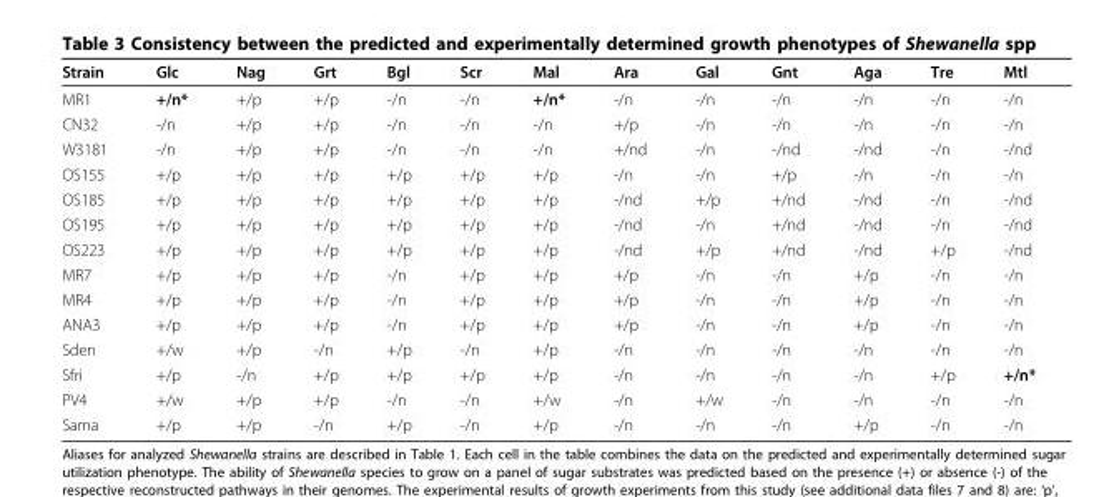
<table><thead><tr><td>Strain</td><td>Glc</td><td>Nag</td><td>Grt</td><td>Bgl</td><td>Scr</td><td>Mal</td><td>Ara</td><td>Gal</td><td>Gnt</td><td>Aga</td><td>Tre</td><td>Mtl</td></tr></thead><tbody><tr><td>MR1</td><td>+/n*</td><td>+/p</td><td>+/p</td><td>-/n</td><td>-/n</td><td>+/n*</td><td>-/n</td><td>-/n</td><td>-/n</td><td>-/n</td><td>-/n</td><td>-/n</td></tr><tr><td>CN32</td><td>-/n</td><td>+/p</td><td>+/p</td><td>-/n</td><td>-/n</td><td>-/n</td><td>+/p</td><td>-/n</td><td>-/n</td><td>-/n</td><td>-/n</td><td>-/n</td></tr><tr><td>W3181</td><td>-/n</td><td>+/p</td><td>+/p</td><td>-/n</td><td>-/n</td><td>-/n</td><td>+/nd</td><td>-/n</td><td>-/nd</td><td>-/nd</td><td>-/n</td><td>-/nd</td></tr><tr><td>OS155</td><td>+/p</td><td>+/p</td><td>+/p</td><td>+/p</td><td>+/p</td><td>+/p</td><td>-/n</td><td>-/n</td><td>+/p</td><td>-/n</td><td>-/n</td><td>-/n</td></tr><tr><td>OS185</td><td>+/p</td><td>+/p</td><td>+/p</td><td>+/p</td><td>+/p</td><td>+/p</td><td>-/nd</td><td>+/p</td><td>+/nd</td><td>-/nd</td><td>-/n</td><td>-/nd</td></tr><tr><td>OS195</td><td>+/p</td><td>+/p</td><td>+/p</td><td>+/p</td><td>+/p</td><td>+/p</td><td>-/nd</td><td>-/n</td><td>+/nd</td><td>-/nd</td><td>-/n</td><td>-/nd</td></tr><tr><td>OS223</td><td>+/p</td><td>+/p</td><td>+/p</td><td>+/p</td><td>+/p</td><td>+/p</td><td>-/nd</td><td>+/p</td><td>+/nd</td><td>-/nd</td><td>+/p</td><td>-/nd</td></tr><tr><td>MR7</td><td>+/p</td><td>+/p</td><td>+/p</td><td>-/n</td><td>+/p</td><td>+/p</td><td>+/p</td><td>-/n</td><td>-/n</td><td>+/p</td><td>-/n</td><td>-/n</td></tr><tr><td>MR4</td><td>+/p</td><td>+/p</td><td>+/p</td><td>-/n</td><td>+/p</td><td>+/p</td><td>+/p</td><td>-/n</td><td>-/n</td><td>+/p</td><td>-/n</td><td>-/n</td></tr><tr><td>ANA3</td><td>+/p</td><td>+/p</td><td>+/p</td><td>-/n</td><td>+/p</td><td>+/p</td><td>+/p</td><td>-/n</td><td>-/n</td><td>+/p</td><td>-/n</td><td>-/n</td></tr><tr><td>Sden</td><td>+/w</td><td>+/p</td><td>-/n</td><td>+/p</td><td>-/n</td><td>+/p</td><td>-/n</td><td>-/n</td><td>-/n</td><td>-/n</td><td>-/n</td><td>-/n</td></tr><tr><td>Sfri</td><td>+/p</td><td>-/n</td><td>+/p</td><td>+/p</td><td>+/p</td><td>+/p</td><td>-/n</td><td>-/n</td><td>-/n</td><td>-/n</td><td>+/p</td><td>+/n*</td></tr><tr><td>PV4</td><td>+/w</td><td>+/p</td><td>+/p</td><td>-/n</td><td>-/n</td><td>+/w</td><td>-/n</td><td>+/w</td><td>-/n</td><td>-/n</td><td>-/n</td><td>-/n</td></tr><tr><td>Sama</td><td>+/p</td><td>+/p</td><td>-/n</td><td>+/p</td><td>-/n</td><td>+/p</td><td>-/n</td><td>-/n</td><td>-/n</td><td>+/p</td><td>-/n</td><td>-/n</td></tr></tbody></table>